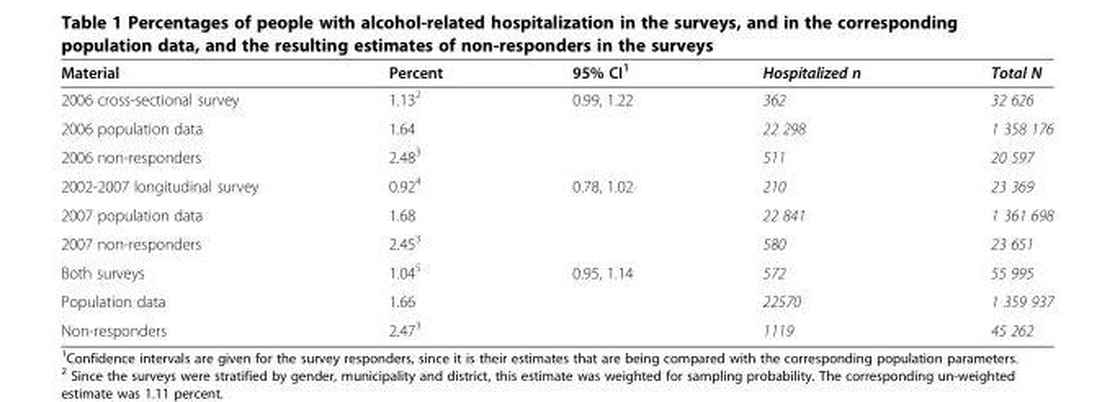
<table><thead><tr><td>Material</td><td>Percent</td><td>95% CI<sup>1</sup></td><td>Hospitalized n</td><td>Total N</td></tr></thead><tbody><tr><td>2006 cross-sectional survey</td><td>1.13<sup>2</sup></td><td>0.99, 1.22</td><td>362</td><td>32 626</td></tr><tr><td>2006 population data</td><td>1.64</td><td></td><td>22 298</td><td>1 358 176</td></tr><tr><td>2006 non-responders</td><td>2.48<sup>3</sup></td><td></td><td>511</td><td>20 597</td></tr><tr><td>2002-2007 longitudinal survey</td><td>0.92<sup>4</sup></td><td>0.78, 1.02</td><td>210</td><td>23 369</td></tr><tr><td>2007 population data</td><td>1.68</td><td></td><td>22 841</td><td>1 361 698</td></tr><tr><td>2007 non-responders</td><td>2.45<sup>3</sup></td><td></td><td>580</td><td>23 651</td></tr><tr><td>Both surveys</td><td>1.04<sup>5</sup></td><td>0.95, 1.14</td><td>572</td><td>55 995</td></tr><tr><td>Population data</td><td>1.66</td><td></td><td>22570</td><td>1 359 937</td></tr><tr><td>Non-responders</td><td>2.47<sup>3</sup></td><td></td><td>1119</td><td>45 262</td></tr></tbody></table>